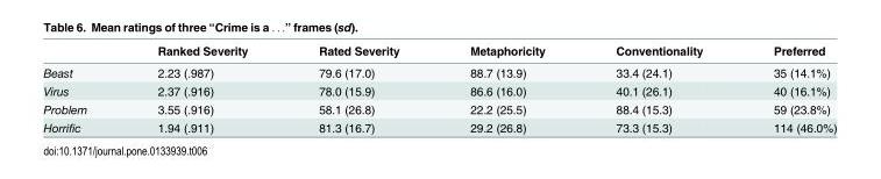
<table><thead><tr><td></td><td>Ranked Severity</td><td>Rated Severity</td><td>Metaphoricity</td><td>Conventionality</td><td>Preferred</td></tr></thead><tbody><tr><td>Beast</td><td>2.23 (.987)</td><td>79.6 (17.0)</td><td>88.7 (13.9)</td><td>33.4 (24.1)</td><td>35 (14.1%)</td></tr><tr><td>Virus</td><td>2.37 (.916)</td><td>78.0 (15.9)</td><td>86.6 (16.0)</td><td>40.1 (26.1)</td><td>40 (16.1%)</td></tr><tr><td>Problem</td><td>3.55 (.916)</td><td>58.1 (26.8)</td><td>22.2 (25.5)</td><td>88.4 (15.3)</td><td>59 (23.8%)</td></tr><tr><td>Horrific</td><td>1.94 (.911)</td><td>81.3 (16.7)</td><td>29.2 (26.8)</td><td>73.3 (15.3)</td><td>114 (46.0%)</td></tr></tbody></table>